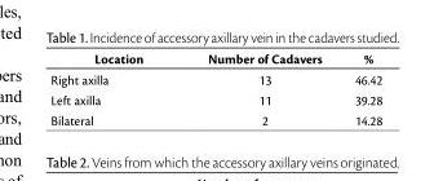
<table><thead><tr><td>Location</td><td>Number of Cadavers</td><td>%</td></tr></thead><tbody><tr><td>Right axilla</td><td>13</td><td>46.42</td></tr><tr><td>Left axilla</td><td>11</td><td>39.28</td></tr><tr><td>Bilateral</td><td>2</td><td>14.28</td></tr></tbody></table>